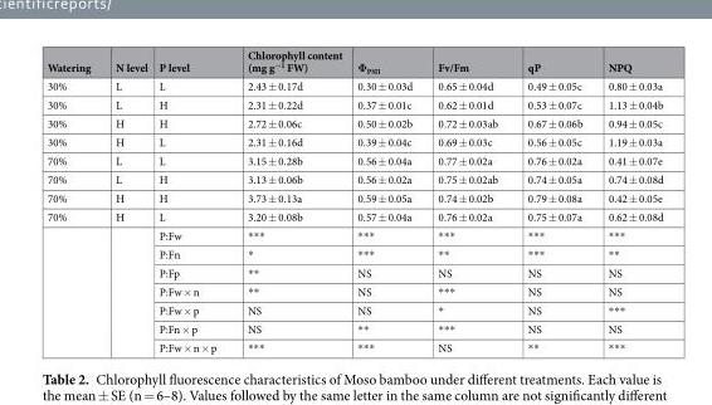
<table><thead><tr><td>Watering</td><td>N level</td><td>P level</td><td>Chlorophyll content (mg g<sup>−1</sup> FW)</td><td>Φ<sub>PSII</sub></td><td>Fv/Fm</td><td>qP</td><td>NPQ</td></tr></thead><tbody><tr><td>30%</td><td>L</td><td>L</td><td>2.43 ± 0.17d</td><td>0.30 ± 0.03d</td><td>0.65 ± 0.04d</td><td>0.49 ± 0.05c</td><td>0.80 ± 0.03a</td></tr><tr><td>30%</td><td>L</td><td>H</td><td>2.31 ± 0.22d</td><td>0.37 ± 0.01c</td><td>0.62 ± 0.01d</td><td>0.53 ± 0.07c</td><td>1.13 ± 0.04b</td></tr><tr><td>30%</td><td>H</td><td>H</td><td>2.72 ± 0.06c</td><td>0.50 ± 0.02b</td><td>0.72 ± 0.03ab</td><td>0.67 ± 0.06b</td><td>0.94 ± 0.05c</td></tr><tr><td>30%</td><td>H</td><td>L</td><td>2.31 ± 0.16d</td><td>0.39 ± 0.04c</td><td>0.69 ± 0.03c</td><td>0.56 ± 0.05c</td><td>1.19 ± 0.03a</td></tr><tr><td>70%</td><td>L</td><td>L</td><td>3.15 ± 0.28b</td><td>0.56 ± 0.04a</td><td>0.77 ± 0.02a</td><td>0.76 ± 0.02a</td><td>0.41 ± 0.07e</td></tr><tr><td>70%</td><td>L</td><td>H</td><td>3.13 ± 0.06b</td><td>0.56 ± 0.02a</td><td>0.75 ± 0.02ab</td><td>0.74 ± 0.05a</td><td>0.74 ± 0.08d</td></tr><tr><td>70%</td><td>H</td><td>H</td><td>3.73 ± 0.13a</td><td>0.59 ± 0.05a</td><td>0.74 ± 0.02b</td><td>0.79 ± 0.08a</td><td>0.42 ± 0.05e</td></tr><tr><td rowspan="8">70%</td><td>H</td><td>L</td><td>3.20 ± 0.08b</td><td>0.57 ± 0.04a</td><td>0.76 ± 0.02a</td><td>0.75 ± 0.07a</td><td>0.62 ± 0.08d</td></tr><tr><td rowspan="7"></td><td>P:Fw</td><td>***</td><td>***</td><td>***</td><td>***</td><td>***</td></tr><tr><td>P:Fn</td><td>*</td><td>***</td><td>**</td><td>***</td><td>**</td></tr><tr><td>P:Fp</td><td>**</td><td>NS</td><td>NS</td><td>NS</td><td>NS</td></tr><tr><td>P:Fw × n</td><td>**</td><td>NS</td><td>***</td><td>NS</td><td>NS</td></tr><tr><td>P:Fw × p</td><td>NS</td><td>NS</td><td>*</td><td>NS</td><td>***</td></tr><tr><td>P:Fn × p</td><td>NS</td><td>**</td><td>***</td><td>NS</td><td>NS</td></tr><tr><td>P:Fw × n × p</td><td>***</td><td>***</td><td>NS</td><td>**</td><td>***</td></tr></tbody></table>